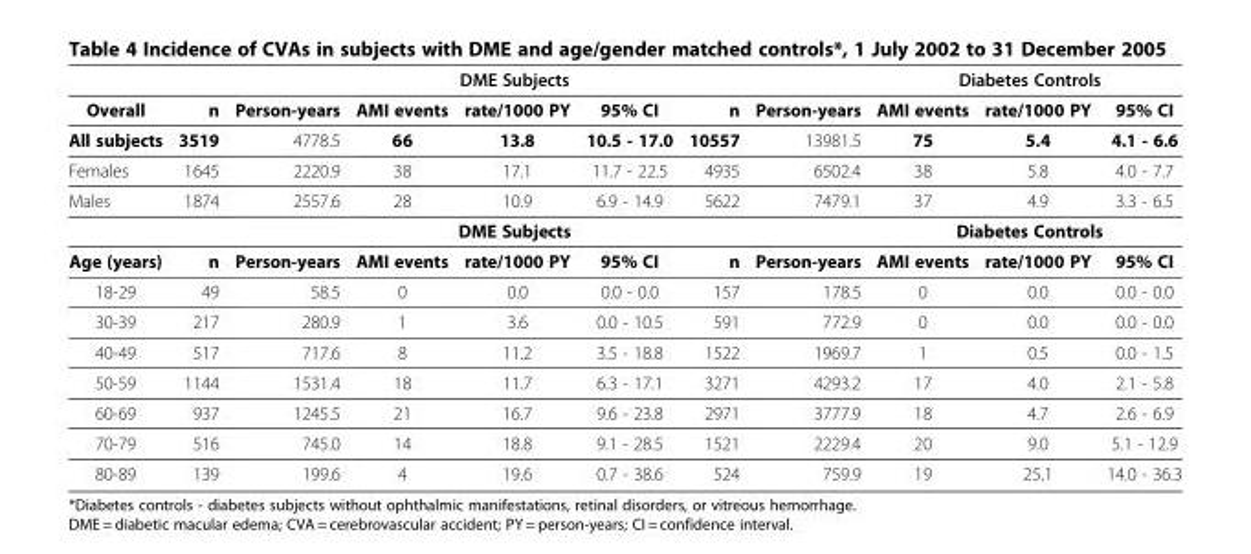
<table><thead><tr><td rowspan="2">Overall</td><td rowspan="2">n</td><td rowspan="2">Person-years</td><td colspan="3">DME Subjects</td><td rowspan="2">n</td><td rowspan="2">Person-years</td><td colspan="3">Diabetes Controls</td></tr><tr><td>AMI events</td><td>rate/1000 PY</td><td>95% CI</td><td>AMI events</td><td>rate/1000 PY</td><td>95% CI</td></tr></thead><tbody><tr><td>All subjects</td><td>3519</td><td>4778.5</td><td>66</td><td>13.8</td><td>10.5 - 17.0</td><td>10557</td><td>13981.5</td><td>75</td><td>5.4</td><td>4.1 - 6.6</td></tr><tr><td>Females</td><td>1645</td><td>2220.9</td><td>38</td><td>17.1</td><td>11.7 - 22.5</td><td>4935</td><td>6502.4</td><td>38</td><td>5.8</td><td>4.0 - 7.7</td></tr><tr><td rowspan="2">Males</td><td>1874</td><td>2557.6</td><td>28</td><td>10.9</td><td>6.9 - 14.9</td><td>5622</td><td>7479.1</td><td>37</td><td>4.9</td><td>3.3 - 6.5</td></tr><tr><td></td><td></td><td colspan="3">DME Subjects</td><td></td><td></td><td colspan="3">Diabetes Controls</td></tr><tr><td>Age (years)</td><td>n</td><td>Person-years</td><td>AMI events</td><td>rate/1000 PY</td><td>95% CI</td><td>n</td><td>Person-years</td><td>AMI events</td><td>rate/1000 PY</td><td>95% CI</td></tr><tr><td>18-29</td><td>49</td><td>58.5</td><td>0</td><td>0.0</td><td>0.0 - 0.0</td><td>157</td><td>178.5</td><td>0</td><td>0.0</td><td>0.0 - 0.0</td></tr><tr><td>30-39</td><td>217</td><td>280.9</td><td>1</td><td>3.6</td><td>0.0 - 10.5</td><td>591</td><td>772.9</td><td>0</td><td>0.0</td><td>0.0 - 0.0</td></tr><tr><td>40-49</td><td>517</td><td>717.6</td><td>8</td><td>11.2</td><td>3.5 - 18.8</td><td>1522</td><td>1969.7</td><td>1</td><td>0.5</td><td>0.0 - 1.5</td></tr><tr><td>50-59</td><td>1144</td><td>1531.4</td><td>18</td><td>11.7</td><td>6.3 - 17.1</td><td>3271</td><td>4293.2</td><td>17</td><td>4.0</td><td>2.1 - 5.8</td></tr><tr><td>60-69</td><td>937</td><td>1245.5</td><td>21</td><td>16.7</td><td>9.6 - 23.8</td><td>2971</td><td>3777.9</td><td>18</td><td>4.7</td><td>2.6 - 6.9</td></tr><tr><td>70-79</td><td>516</td><td>745.0</td><td>14</td><td>18.8</td><td>9.1 - 28.5</td><td>1521</td><td>2229.4</td><td>20</td><td>9.0</td><td>5.1 - 12.9</td></tr><tr><td>80-89</td><td>139</td><td>199.6</td><td>4</td><td>19.6</td><td>0.7 - 38.6</td><td>524</td><td>759.9</td><td>19</td><td>25.1</td><td>14.0 - 36.3</td></tr></tbody></table>